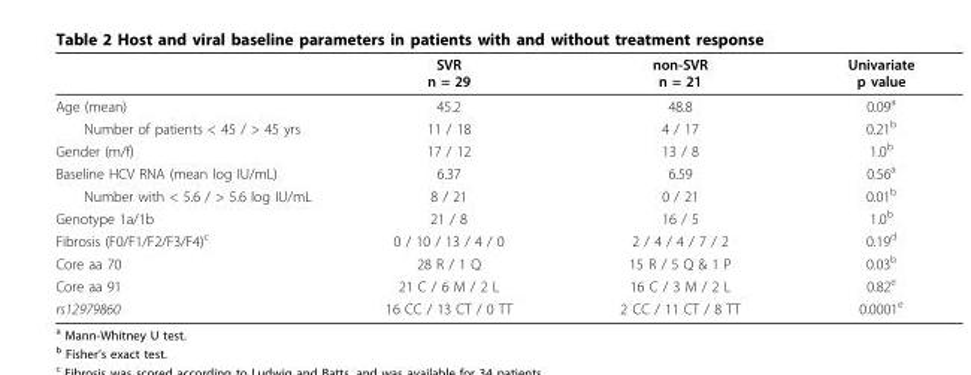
<table><thead><tr><td></td><td>SVR n = 29</td><td>non-SVR n = 21</td><td>Univariate p value</td></tr></thead><tbody><tr><td>Age (mean)</td><td>45.2</td><td>48.8</td><td>0.09<sup>a</sup></td></tr><tr><td>Number of patients &lt; 45 / &gt; 45 yrs</td><td>11 / 18</td><td>4 / 17</td><td>0.21<sup>b</sup></td></tr><tr><td>Gender (m/f)</td><td>17 / 12</td><td>13 / 8</td><td>1.0<sup>b</sup></td></tr><tr><td>Baseline HCV RNA (mean log IU/mL)</td><td>6.37</td><td>6.59</td><td>0.56<sup>a</sup></td></tr><tr><td>Number with &lt; 5.6 / &gt; 5.6 log IU/mL</td><td>8 / 21</td><td>0 / 21</td><td>0.01<sup>b</sup></td></tr><tr><td>Genotype 1a/1b</td><td>21 / 8</td><td>16 / 5</td><td>1.0<sup>b</sup></td></tr><tr><td>Fibrosis (F0/F1/F2/F3/F4)<sup>c</sup></td><td>0 / 10 / 13 / 4 / 0</td><td>2 / 4 / 4 / 7 / 2</td><td>0.19<sup>d</sup></td></tr><tr><td>Core aa 70</td><td>28 R / 1 Q</td><td>15 R / 5 Q &amp; 1 P</td><td>0.03<sup>b</sup></td></tr><tr><td>Core aa 91</td><td>21 C / 6 M / 2 L</td><td>16 C / 3 M / 2 L</td><td>0.82<sup>e</sup></td></tr><tr><td>rs12979860</td><td>16 CC / 13 CT / 0 TT</td><td>2 CC / 11 CT / 8 TT</td><td>0.0001<sup>e</sup></td></tr></tbody></table>